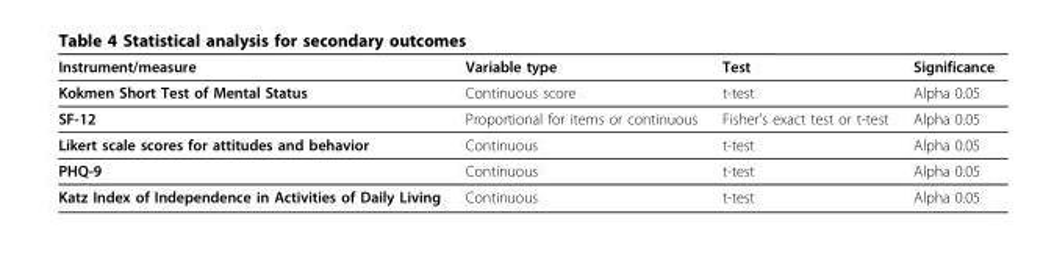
<table><thead><tr><td>Instrument/measure</td><td>Variable type</td><td>Test</td><td>Significance</td></tr></thead><tbody><tr><td>Kokmen Short Test of Mental Status</td><td>Continuous score</td><td>t-test</td><td>Alpha 0.05</td></tr><tr><td>SF-12</td><td>Proportional for items or continuous</td><td>Fisher’s exact test or t-test</td><td>Alpha 0.05</td></tr><tr><td>Likert scale scores for attitudes and behavior</td><td>Continuous</td><td>t-test</td><td>Alpha 0.05</td></tr><tr><td>PHQ-9</td><td>Continuous</td><td>t-test</td><td>Alpha 0.05</td></tr><tr><td>Katz Index of Independence in Activities of Daily Living</td><td>Continuous</td><td>t-test</td><td>Alpha 0.05</td></tr></tbody></table>